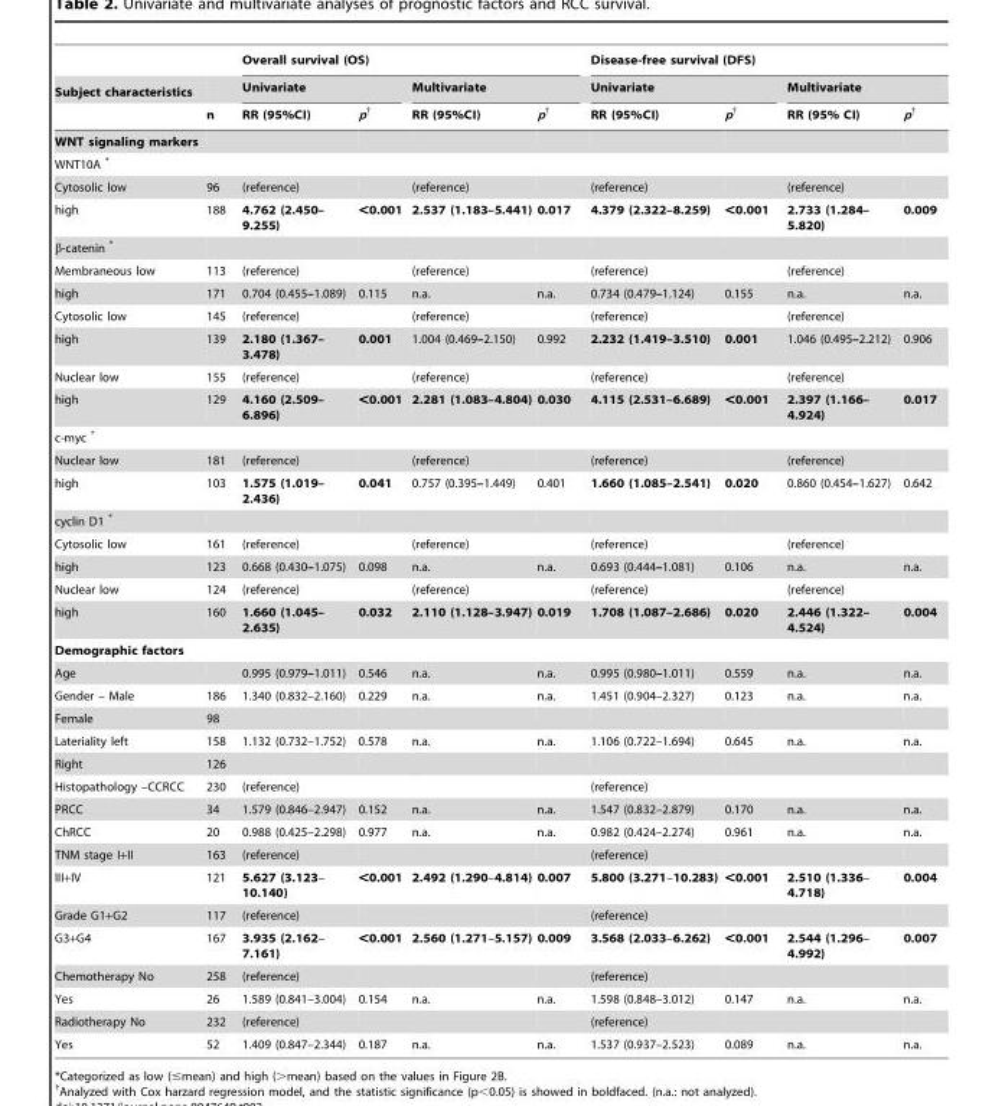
<table><thead><tr><td rowspan="3">Subject characteristics</td><td rowspan="3">n</td><td colspan="4">Overall survival (OS)</td><td colspan="4">Disease-free survival (DFS)</td></tr><tr><td colspan="2">Univariate</td><td colspan="2">Multivariate</td><td colspan="2">Univariate</td><td colspan="2">Multivariate</td></tr><tr><td>RR (95%CI)</td><td>p†</td><td>RR (95%CI)</td><td>p†</td><td>RR (95%CI)</td><td>p†</td><td>RR (95% CI)</td><td>p†</td></tr></thead><tbody><tr><td colspan="10">WNT signaling markers</td></tr><tr><td colspan="10">WNT10A *</td></tr><tr><td>Cytosolic low</td><td>96</td><td>(reference)</td><td></td><td>(reference)</td><td></td><td>(reference)</td><td></td><td>(reference)</td><td></td></tr><tr><td>high</td><td>188</td><td>4.762 (2.450– 9.255)</td><td>&lt;0.001</td><td>2.537 (1.183–5.441)</td><td>0.017</td><td>4.379 (2.322–8.259)</td><td>&lt;0.001</td><td>2.733 (1.284– 5.820)</td><td>0.009</td></tr><tr><td colspan="10">β-catenin *</td></tr><tr><td>Membraneous low</td><td>113</td><td>(reference)</td><td></td><td>(reference)</td><td></td><td>(reference)</td><td></td><td>(reference)</td><td></td></tr><tr><td>high</td><td>171</td><td>0.704 (0.455–1.089)</td><td>0.115</td><td>n.a.</td><td>n.a.</td><td>0.734 (0.479–1.124)</td><td>0.155</td><td>n.a.</td><td>n.a.</td></tr><tr><td>Cytosolic low</td><td>145</td><td>(reference)</td><td></td><td>(reference)</td><td></td><td>(reference)</td><td></td><td>(reference)</td><td></td></tr><tr><td>high</td><td>139</td><td>2.180 (1.367– 3.478)</td><td>0.001</td><td>1.004 (0.469–2.150)</td><td>0.992</td><td>2.232 (1.419–3.510)</td><td>0.001</td><td>1.046 (0.495–2.212)</td><td>0.906</td></tr><tr><td>Nuclear low</td><td>155</td><td>(reference)</td><td></td><td>(reference)</td><td></td><td>(reference)</td><td></td><td>(reference)</td><td></td></tr><tr><td>high</td><td>129</td><td>4.160 (2.509– 6.896)</td><td>&lt;0.001</td><td>2.281 (1.083–4.804)</td><td>0.030</td><td>4.115 (2.531–6.689)</td><td>&lt;0.001</td><td>2.397 (1.166– 4.924)</td><td>0.017</td></tr><tr><td colspan="10">c-myc *</td></tr><tr><td>Nuclear low</td><td>181</td><td>(reference)</td><td></td><td>(reference)</td><td></td><td>(reference)</td><td></td><td>(reference)</td><td></td></tr><tr><td>high</td><td>103</td><td>1.575 (1.019– 2.436)</td><td>0.041</td><td>0.757 (0.395–1.449)</td><td>0.401</td><td>1.660 (1.085–2.541)</td><td>0.020</td><td>0.860 (0.454–1.627)</td><td>0.642</td></tr><tr><td colspan="10">cyclin D1 *</td></tr><tr><td>Cytosolic low</td><td>161</td><td>(reference)</td><td></td><td>(reference)</td><td></td><td>(reference)</td><td></td><td>(reference)</td><td></td></tr><tr><td>high</td><td>123</td><td>0.668 (0.430–1.075)</td><td>0.098</td><td>n.a.</td><td>n.a.</td><td>0.693 (0.444–1.081)</td><td>0.106</td><td>n.a.</td><td>n.a.</td></tr><tr><td>Nuclear low</td><td>124</td><td>(reference)</td><td></td><td>(reference)</td><td></td><td>(reference)</td><td></td><td>(reference)</td><td></td></tr><tr><td>high</td><td>160</td><td>1.660 (1.045– 2.635)</td><td>0.032</td><td>2.110 (1.128–3.947)</td><td>0.019</td><td>1.708 (1.087–2.686)</td><td>0.020</td><td>2.446 (1.322– 4.524)</td><td>0.004</td></tr><tr><td colspan="10">Demographic factors</td></tr><tr><td>Age</td><td></td><td>0.995 (0.979–1.011)</td><td>0.546</td><td>n.a.</td><td>n.a.</td><td>0.995 (0.980–1.011)</td><td>0.559</td><td>n.a.</td><td>n.a.</td></tr><tr><td>Gender – Male</td><td>186</td><td>1.340 (0.832–2.160)</td><td>0.229</td><td>n.a.</td><td>n.a.</td><td>1.451 (0.904–2.327)</td><td>0.123</td><td>n.a.</td><td>n.a.</td></tr><tr><td>Female</td><td>98</td><td></td><td></td><td></td><td></td><td></td><td></td><td></td><td></td></tr><tr><td>Lateriality left</td><td>158</td><td>1.132 (0.732–1.752)</td><td>0.578</td><td>n.a.</td><td>n.a.</td><td>1.106 (0.722–1.694)</td><td>0.645</td><td>n.a.</td><td>n.a.</td></tr><tr><td>Right</td><td>126</td><td></td><td></td><td></td><td></td><td></td><td></td><td></td><td></td></tr><tr><td>Histopathology –CCRCC</td><td>230</td><td>(reference)</td><td></td><td></td><td></td><td>(reference)</td><td></td><td></td><td></td></tr><tr><td>PRCC</td><td>34</td><td>1.579 (0.846–2.947)</td><td>0.152</td><td>n.a.</td><td>n.a.</td><td>1.547 (0.832–2.879)</td><td>0.170</td><td>n.a.</td><td>n.a.</td></tr><tr><td>ChRCC</td><td>20</td><td>0.988 (0.425–2.298)</td><td>0.977</td><td>n.a.</td><td>n.a.</td><td>0.982 (0.424–2.274)</td><td>0.961</td><td>n.a.</td><td>n.a.</td></tr><tr><td>TNM stage I+II</td><td>163</td><td>(reference)</td><td></td><td></td><td></td><td>(reference)</td><td></td><td></td><td></td></tr><tr><td>III+IV</td><td>121</td><td>5.627 (3.123– 10.140)</td><td>&lt;0.001</td><td>2.492 (1.290–4.814)</td><td>0.007</td><td>5.800 (3.271–10.283)</td><td>&lt;0.001</td><td>2.510 (1.336– 4.718)</td><td>0.004</td></tr><tr><td>Grade G1+G2</td><td>117</td><td>(reference)</td><td></td><td></td><td></td><td>(reference)</td><td></td><td></td><td></td></tr><tr><td>G3+G4</td><td>167</td><td>3.935 (2.162– 7.161)</td><td>&lt;0.001</td><td>2.560 (1.271–5.157)</td><td>0.009</td><td>3.568 (2.033–6.262)</td><td>&lt;0.001</td><td>2.544 (1.296– 4.992)</td><td>0.007</td></tr><tr><td>Chemotherapy No</td><td>258</td><td>(reference)</td><td></td><td></td><td></td><td>(reference)</td><td></td><td></td><td></td></tr><tr><td>Yes</td><td>26</td><td>1.589 (0.841–3.004)</td><td>0.154</td><td>n.a.</td><td>n.a.</td><td>1.598 (0.848–3.012)</td><td>0.147</td><td>n.a.</td><td>n.a.</td></tr><tr><td>Radiotherapy No</td><td>232</td><td>(reference)</td><td></td><td></td><td></td><td>(reference)</td><td></td><td></td><td></td></tr><tr><td>Yes</td><td>52</td><td>1.409 (0.847–2.344)</td><td>0.187</td><td>n.a.</td><td>n.a.</td><td>1.537 (0.937–2.523)</td><td>0.089</td><td>n.a.</td><td>n.a.</td></tr></tbody></table>